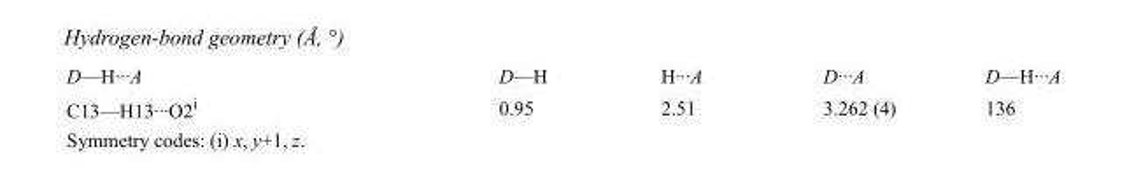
<table><tbody><tr><td>D—H···A</td><td>D—H</td><td>H···A</td><td>D···A</td><td>D—H···A</td></tr><tr><td>C13—H13···O2<sup>i</sup></td><td>0.95</td><td>2.51</td><td>3.262 (4)</td><td>136</td></tr></tbody></table>